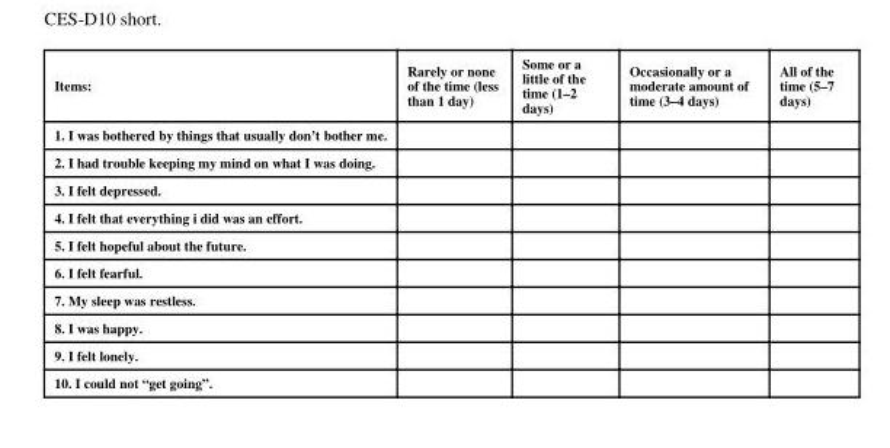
<table><thead><tr><td>Items:</td><td>Rarely or none of the time (less than 1 day)</td><td>Some or a little of the time (1–2 days)</td><td>Occasionally or a moderate amount of time (3–4 days)</td><td>All of the time (5–7 days)</td></tr></thead><tbody><tr><td colspan="5">1. I was bothered by things that usually don’t bother me.</td></tr><tr><td colspan="5">2. I had trouble keeping my mind on what I was doing.</td></tr><tr><td colspan="5">3. I felt depressed.</td></tr><tr><td colspan="5">4. I felt that everything i did was an effort.</td></tr><tr><td colspan="5">5. I felt hopeful about the future.</td></tr><tr><td colspan="5">6. I felt fearful.</td></tr><tr><td colspan="5">7. My sleep was restless.</td></tr><tr><td colspan="5">8. I was happy.</td></tr><tr><td colspan="5">9. I felt lonely.</td></tr><tr><td>10. I could not “get going”.</td><td></td><td></td><td></td><td></td></tr></tbody></table>